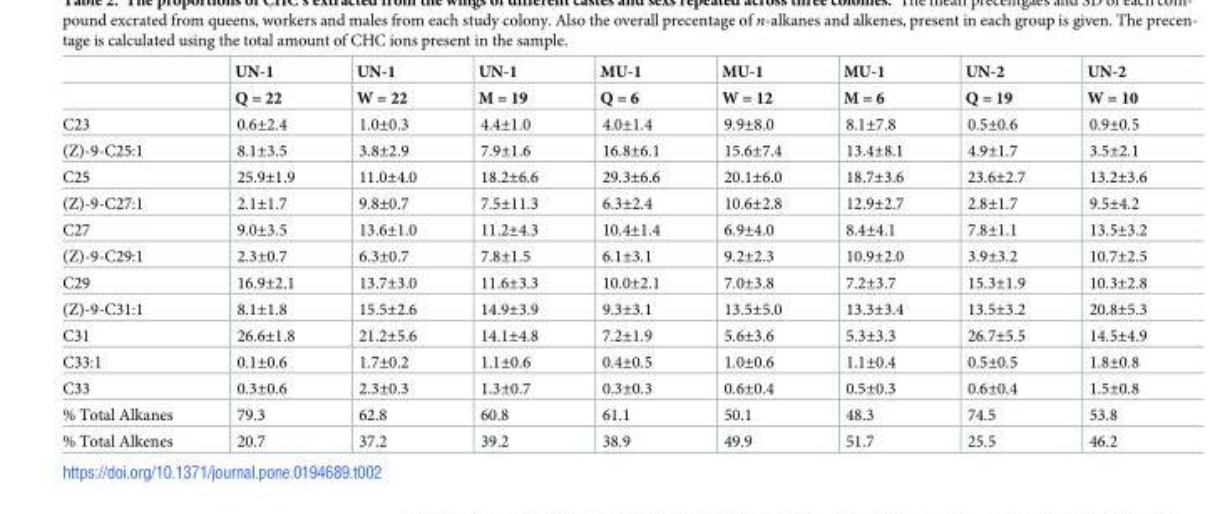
<table><thead><tr><td rowspan="2"></td><td rowspan="2">UN-1 Q = 22</td><td rowspan="2">UN-1 W = 22</td><td rowspan="2">UN-1 M = 19</td><td rowspan="2">MU-1 Q = 6</td><td rowspan="2">MU-1 W = 12</td><td rowspan="2">MU-1 M = 6</td><td rowspan="2">UN-2 Q = 19</td><td rowspan="2">UN-2 W = 10</td></tr><tr></tr></thead><tbody><tr><td>C23</td><td>0.6±2.4</td><td>1.0±0.3</td><td>4.4±1.0</td><td>4.0±1.4</td><td>9.9±8.0</td><td>8.1±7.8</td><td>0.5±0.6</td><td>0.9±0.5</td></tr><tr><td>(Z)-9-C25:1</td><td>8.1±3.5</td><td>3.8±2.9</td><td>7.9±1.6</td><td>16.8±6.1</td><td>15.6±7.4</td><td>13.4±8.1</td><td>4.9±1.7</td><td>3.5±2.1</td></tr><tr><td>C25</td><td>25.9±1.9</td><td>11.0±4.0</td><td>18.2±6.6</td><td>29.3±6.6</td><td>20.1±6.0</td><td>18.7±3.6</td><td>23.6±2.7</td><td>13.2±3.6</td></tr><tr><td>(Z)-9-C27:1</td><td>2.1±1.7</td><td>9.8±0.7</td><td>7.5±11.3</td><td>6.3±2.4</td><td>10.6±2.8</td><td>12.9±2.7</td><td>2.8±1.7</td><td>9.5±4.2</td></tr><tr><td>C27</td><td>9.0±3.5</td><td>13.6±1.0</td><td>11.2±4.3</td><td>10.4±1.4</td><td>6.9±4.0</td><td>8.4±4.1</td><td>7.8±1.1</td><td>13.5±3.2</td></tr><tr><td>(Z)-9-C29:1</td><td>2.3±0.7</td><td>6.3±0.7</td><td>7.8±1.5</td><td>6.1±3.1</td><td>9.2±2.3</td><td>10.9±2.0</td><td>3.9±3.2</td><td>10.7±2.5</td></tr><tr><td>C29</td><td>16.9±2.1</td><td>13.7±3.0</td><td>11.6±3.3</td><td>10.0±2.1</td><td>7.0±3.8</td><td>7.2±3.7</td><td>15.3±1.9</td><td>10.3±2.8</td></tr><tr><td>(Z)-9-C31:1</td><td>8.1±1.8</td><td>15.5±2.6</td><td>14.9±3.9</td><td>9.3±3.1</td><td>13.5±5.0</td><td>13.3±3.4</td><td>13.5±3.2</td><td>20.8±5.3</td></tr><tr><td>C31</td><td>26.6±1.8</td><td>21.2±5.6</td><td>14.1±4.8</td><td>7.2±1.9</td><td>5.6±3.6</td><td>5.3±3.3</td><td>26.7±5.5</td><td>14.5±4.9</td></tr><tr><td>C33:1</td><td>0.1±0.6</td><td>1.7±0.2</td><td>1.1±0.6</td><td>0.4±0.5</td><td>1.0±0.6</td><td>1.1±0.4</td><td>0.5±0.5</td><td>1.8±0.8</td></tr><tr><td>C33</td><td>0.3±0.6</td><td>2.3±0.3</td><td>1.3±0.7</td><td>0.3±0.3</td><td>0.6±0.4</td><td>0.5±0.3</td><td>0.6±0.4</td><td>1.5±0.8</td></tr><tr><td>% Total Alkanes</td><td>79.3</td><td>62.8</td><td>60.8</td><td>61.1</td><td>50.1</td><td>48.3</td><td>74.5</td><td>53.8</td></tr><tr><td>% Total Alkenes</td><td>20.7</td><td>37.2</td><td>39.2</td><td>38.9</td><td>49.9</td><td>51.7</td><td>25.5</td><td>46.2</td></tr></tbody></table>